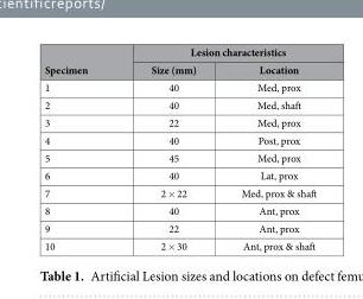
<table><thead><tr><td rowspan="2">Specimen</td><td colspan="2">Lesion characteristics</td></tr><tr><td>Size (mm)</td><td>Location</td></tr></thead><tbody><tr><td>1</td><td>40</td><td>Med, prox</td></tr><tr><td>2</td><td>40</td><td>Med, shaft</td></tr><tr><td>3</td><td>22</td><td>Med, prox</td></tr><tr><td>4</td><td>40</td><td>Post, prox</td></tr><tr><td>5</td><td>45</td><td>Med, prox</td></tr><tr><td>6</td><td>40</td><td>Lat, prox</td></tr><tr><td>7</td><td>2 × 22</td><td>Med, prox &amp; shaft</td></tr><tr><td>8</td><td>40</td><td>Ant, prox</td></tr><tr><td>9</td><td>22</td><td>Ant, prox</td></tr><tr><td>10</td><td>2 × 30</td><td>Ant, prox &amp; shaft</td></tr></tbody></table>